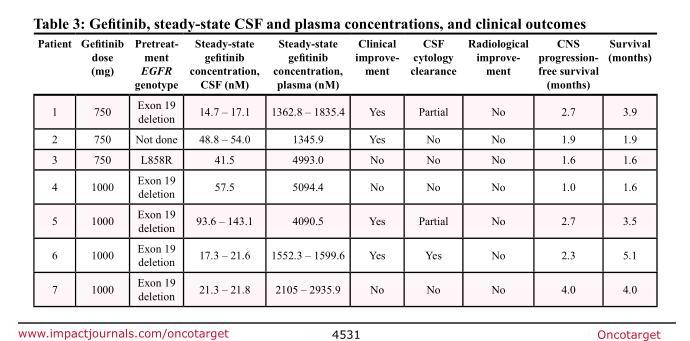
<table><thead><tr><td>Patient</td><td>Gefitinib dose (mg)</td><td>Pretreat- ment EGFR genotype</td><td>Steady-state gefitinib concentration, CSF (nM)</td><td>Steady-state gefitinib concentration, plasma (nM)</td><td>Clinical improve- ment</td><td>CSF cytology clearance</td><td>Radiological improve- ment</td><td>CNS progression- free survival (months)</td><td>Survival (months)</td></tr></thead><tbody><tr><td>1</td><td>750</td><td>Exon 19 deletion</td><td>14.7 – 17.1</td><td>1362.8 – 1835.4</td><td>Yes</td><td>Partial</td><td>No</td><td>2.7</td><td>3.9</td></tr><tr><td>2</td><td>750</td><td>Not done</td><td>48.8 – 54.0</td><td>1345.9</td><td>Yes</td><td>No</td><td>No</td><td>1.9</td><td>1.9</td></tr><tr><td>3</td><td>750</td><td>L858R</td><td>41.5</td><td>4993.0</td><td>No</td><td>No</td><td>No</td><td>1.6</td><td>1.6</td></tr><tr><td>4</td><td>1000</td><td>Exon 19 deletion</td><td>57.5</td><td>5094.4</td><td>No</td><td>No</td><td>No</td><td>1.0</td><td>1.6</td></tr><tr><td>5</td><td>1000</td><td>Exon 19 deletion</td><td>93.6 – 143.1</td><td>4090.5</td><td>Yes</td><td>Partial</td><td>No</td><td>2.7</td><td>3.5</td></tr><tr><td>6</td><td>1000</td><td>Exon 19 deletion</td><td>17.3 – 21.6</td><td>1552.3 – 1599.6</td><td>Yes</td><td>Yes</td><td>No</td><td>2.3</td><td>5.1</td></tr><tr><td>7</td><td>1000</td><td>Exon 19 deletion</td><td>21.3 – 21.8</td><td>2105 – 2935.9</td><td>No</td><td>No</td><td>No</td><td>4.0</td><td>4.0</td></tr></tbody></table>